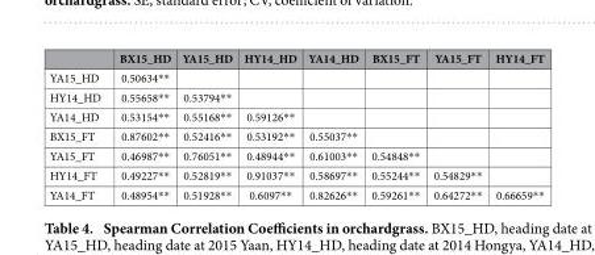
<table><thead><tr><td></td><td>BX15_HD</td><td>YA15_HD</td><td>HY14_HD</td><td>YA14_HD</td><td>BX15_FT</td><td>YA15_FT</td><td>HY14_FT</td></tr></thead><tbody><tr><td>YA15_HD</td><td>0.50634* *</td><td></td><td></td><td></td><td></td><td></td><td></td></tr><tr><td>HY14_HD</td><td>0.55658* *</td><td>0.53794* *</td><td></td><td></td><td></td><td></td><td></td></tr><tr><td>YA14_HD</td><td>0.53154* *</td><td>0.55168* *</td><td>0.59126* *</td><td></td><td></td><td></td><td></td></tr><tr><td>BX15_FT</td><td>0.87602* *</td><td>0.52416* *</td><td>0.53192* *</td><td>0.55037* *</td><td></td><td></td><td></td></tr><tr><td>YA15_FT</td><td>0.46987* *</td><td>0.76051* *</td><td>0.48944* *</td><td>0.61003* *</td><td>0.54848* *</td><td></td><td></td></tr><tr><td>HY14_FT</td><td>0.49227* *</td><td>0.52819* *</td><td>0.91037* *</td><td>0.58697* *</td><td>0.55244* *</td><td>0.54829* *</td><td></td></tr><tr><td>YA14_FT</td><td>0.48954* *</td><td>0.51928* *</td><td>0.6097* *</td><td>0.82626* *</td><td>0.59261* *</td><td>0.64272* *</td><td>0.66659* *</td></tr></tbody></table>